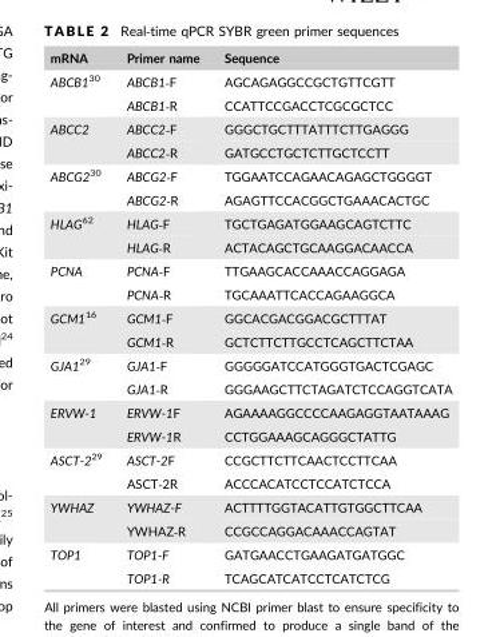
<table><thead><tr><td>mRNA</td><td>Primer name</td><td>Sequence</td></tr></thead><tbody><tr><td rowspan="2">ABCB130</td><td>ABCB1‐F</td><td>AGCAGAGGCCGCTGTTCGTT</td></tr><tr><td>ABCB1‐R</td><td>CCATTCCGACCTCGCGCTCC</td></tr><tr><td rowspan="2">ABCC2</td><td>ABCC2‐F</td><td>GGGCTGCTTTATTTCTTGAGGG</td></tr><tr><td>ABCC2‐R</td><td>GATGCCTGCTCTTGCTCCTT</td></tr><tr><td rowspan="2">ABCG230</td><td>ABCG2‐F</td><td>TGGAATCCAGAACAGAGCTGGGGT</td></tr><tr><td>ABCG2‐R</td><td>AGAGTTCCACGGCTGAAACACTGC</td></tr><tr><td rowspan="2">HLAG62</td><td>HLAG‐F</td><td>TGCTGAGATGGAAGCAGTCTTC</td></tr><tr><td>HLAG‐R</td><td>ACTACAGCTGCAAGGACAACCA</td></tr><tr><td rowspan="2">PCNA</td><td>PCNA‐F</td><td>TTGAAGCACCAAACCAGGAGA</td></tr><tr><td>PCNA‐R</td><td>TGCAAATTCACCAGAAGGCA</td></tr><tr><td rowspan="2">GCM116</td><td>GCM1‐F</td><td>GGCACGACGGACGCTTTAT</td></tr><tr><td>GCM1‐R</td><td>GCTCTTCTTGCCTCAGCTTCTAA</td></tr><tr><td rowspan="2">GJA129</td><td>GJA1‐F</td><td>GGGGGATCCATGGGTGACTCGAGC</td></tr><tr><td>GJA1‐R</td><td>GGGAAGCTTCTAGATCTCCAGGTCATA</td></tr><tr><td rowspan="2">ERVW-1</td><td>ERVW-1F</td><td>AGAAAAGGCCCCAAGAGGTAATAAAG</td></tr><tr><td>ERVW-1R</td><td>CCTGGAAAGCAGGGCTATTG</td></tr><tr><td rowspan="2">ASCT-229</td><td>ASCT-2F</td><td>CCGCTTCTTCAACTCCTTCAA</td></tr><tr><td>ASCT‐2R</td><td>ACCCACATCCTCCATCTCCA</td></tr><tr><td rowspan="2">YWHAZ</td><td>YWHAZ-F</td><td>ACTTTTGGTACATTGTGGCTTCAA</td></tr><tr><td>YWHAZ‐R</td><td>CCGCCAGGACAAACCAGTAT</td></tr><tr><td rowspan="2">TOP1</td><td>TOP1-F</td><td>GATGAACCTGAAGATGATGGC</td></tr><tr><td>TOP1-R</td><td>TCAGCATCATCCTCATCTCG</td></tr></tbody></table>